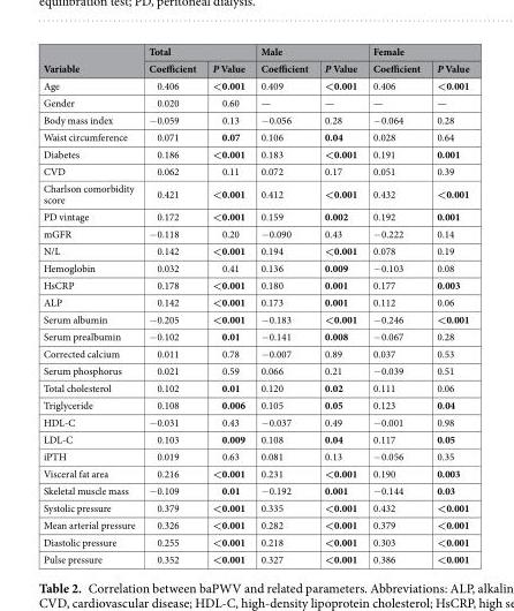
<table><thead><tr><td rowspan="2">Variable</td><td colspan="2">Total</td><td colspan="2">Male</td><td colspan="2">Female</td></tr><tr><td>Coefficient</td><td>P Value</td><td>Coefficient</td><td>P Value</td><td>Coefficient</td><td>P Value</td></tr></thead><tbody><tr><td>Age</td><td>0.406</td><td>&lt;0.001</td><td>0.409</td><td>&lt;0.001</td><td>0.406</td><td>&lt;0.001</td></tr><tr><td>Gender</td><td>0.020</td><td>0.60</td><td>—</td><td>—</td><td>—</td><td>—</td></tr><tr><td>Body mass index</td><td>−0.059</td><td>0.13</td><td>−0.056</td><td>0.28</td><td>−0.064</td><td>0.28</td></tr><tr><td>Waist circumference</td><td>0.071</td><td>0.07</td><td>0.106</td><td>0.04</td><td>0.028</td><td>0.64</td></tr><tr><td>Diabetes</td><td>0.186</td><td>&lt;0.001</td><td>0.183</td><td>&lt;0.001</td><td>0.191</td><td>0.001</td></tr><tr><td>CVD</td><td>0.062</td><td>0.11</td><td>0.072</td><td>0.17</td><td>0.051</td><td>0.39</td></tr><tr><td>Charlson comorbidity score</td><td>0.421</td><td>&lt;0.001</td><td>0.412</td><td>&lt;0.001</td><td>0.432</td><td>&lt;0.001</td></tr><tr><td>PD vintage</td><td>0.172</td><td>&lt;0.001</td><td>0.159</td><td>0.002</td><td>0.192</td><td>0.001</td></tr><tr><td>mGFR</td><td>−0.118</td><td>0.20</td><td>−0.090</td><td>0.43</td><td>−0.222</td><td>0.14</td></tr><tr><td>N/L</td><td>0.142</td><td>&lt;0.001</td><td>0.194</td><td>&lt;0.001</td><td>0.078</td><td>0.19</td></tr><tr><td>Hemoglobin</td><td>0.032</td><td>0.41</td><td>0.136</td><td>0.009</td><td>−0.103</td><td>0.08</td></tr><tr><td>HsCRP</td><td>0.178</td><td>&lt;0.001</td><td>0.180</td><td>0.001</td><td>0.177</td><td>0.003</td></tr><tr><td>ALP</td><td>0.142</td><td>&lt;0.001</td><td>0.173</td><td>0.001</td><td>0.112</td><td>0.06</td></tr><tr><td>Serum albumin</td><td>−0.205</td><td>&lt;0.001</td><td>−0.183</td><td>&lt;0.001</td><td>−0.246</td><td>&lt;0.001</td></tr><tr><td>Serum prealbumin</td><td>−0.102</td><td>0.01</td><td>−0.141</td><td>0.008</td><td>−0.067</td><td>0.28</td></tr><tr><td>Corrected calcium</td><td>0.011</td><td>0.78</td><td>−0.007</td><td>0.89</td><td>0.037</td><td>0.53</td></tr><tr><td>Serum phosphorus</td><td>0.021</td><td>0.59</td><td>0.066</td><td>0.21</td><td>−0.039</td><td>0.51</td></tr><tr><td>Total cholesterol</td><td>0.102</td><td>0.01</td><td>0.120</td><td>0.02</td><td>0.111</td><td>0.06</td></tr><tr><td>Triglyceride</td><td>0.108</td><td>0.006</td><td>0.105</td><td>0.05</td><td>0.123</td><td>0.04</td></tr><tr><td>HDL-C</td><td>−0.031</td><td>0.43</td><td>−0.037</td><td>0.49</td><td>−0.001</td><td>0.98</td></tr><tr><td>LDL-C</td><td>0.103</td><td>0.009</td><td>0.108</td><td>0.04</td><td>0.117</td><td>0.05</td></tr><tr><td>iPTH</td><td>0.019</td><td>0.63</td><td>0.081</td><td>0.13</td><td>−0.056</td><td>0.35</td></tr><tr><td>Visceral fat area</td><td>0.216</td><td>&lt;0.001</td><td>0.231</td><td>&lt;0.001</td><td>0.190</td><td>0.003</td></tr><tr><td>Skeletal muscle mass</td><td>−0.109</td><td>0.01</td><td>−0.192</td><td>0.001</td><td>−0.144</td><td>0.03</td></tr><tr><td>Systolic pressure</td><td>0.379</td><td>&lt;0.001</td><td>0.335</td><td>&lt;0.001</td><td>0.432</td><td>&lt;0.001</td></tr><tr><td>Mean arterial pressure</td><td>0.326</td><td>&lt;0.001</td><td>0.282</td><td>&lt;0.001</td><td>0.379</td><td>&lt;0.001</td></tr><tr><td>Diastolic pressure</td><td>0.255</td><td>&lt;0.001</td><td>0.218</td><td>&lt;0.001</td><td>0.303</td><td>&lt;0.001</td></tr><tr><td>Pulse pressure</td><td>0.352</td><td>&lt;0.001</td><td>0.327</td><td>&lt;0.001</td><td>0.386</td><td>&lt;0.001</td></tr></tbody></table>